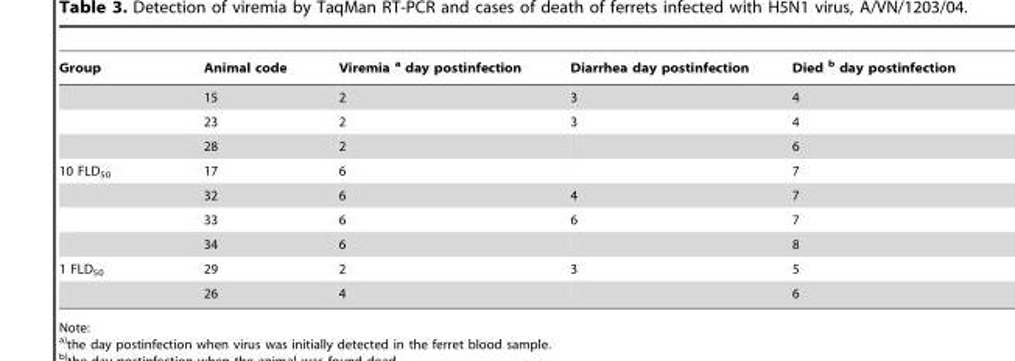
<table><thead><tr><td>Group</td><td>Animal code</td><td>Viremia a day postinfection</td><td>Diarrhea day postinfection</td><td>Died <sup>b</sup> day postinfection</td></tr></thead><tbody><tr><td></td><td>15</td><td>2</td><td>3</td><td>4</td></tr><tr><td></td><td>23</td><td>2</td><td>3</td><td>4</td></tr><tr><td></td><td>28</td><td>2</td><td></td><td>6</td></tr><tr><td rowspan="4">10 FLD<sub>50</sub></td><td>17</td><td>6</td><td></td><td>7</td></tr><tr><td>32</td><td>6</td><td>4</td><td>7</td></tr><tr><td>33</td><td>6</td><td>6</td><td>7</td></tr><tr><td>34</td><td>6</td><td></td><td>8</td></tr><tr><td rowspan="2">1 FLD<sub>50</sub></td><td>29</td><td>2</td><td>3</td><td>5</td></tr><tr><td>26</td><td>4</td><td></td><td>6</td></tr></tbody></table>